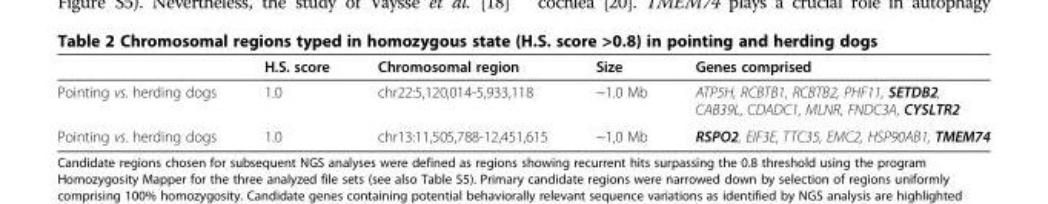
<table><thead><tr><td></td><td>H.S. score</td><td>Chromosomal region</td><td>Size</td><td>Genes comprised</td></tr></thead><tbody><tr><td>Pointing vs. herding dogs</td><td>1.0</td><td>chr22:5,120,014-5,933,118</td><td>~1.0 Mb</td><td>ATP5H, RCBTB1, RCBTB2, PHF11, SETDB2, CAB39L, CDADC1, MLNR, FNDC3A, CYSLTR2</td></tr><tr><td>Pointing vs. herding dogs</td><td>1.0</td><td>chr13:11,505,788-12,451,615</td><td>~1,0 Mb</td><td>RSPO2, EIF3E, TTC35, EMC2, HSP90AB1, TMEM74</td></tr></tbody></table>